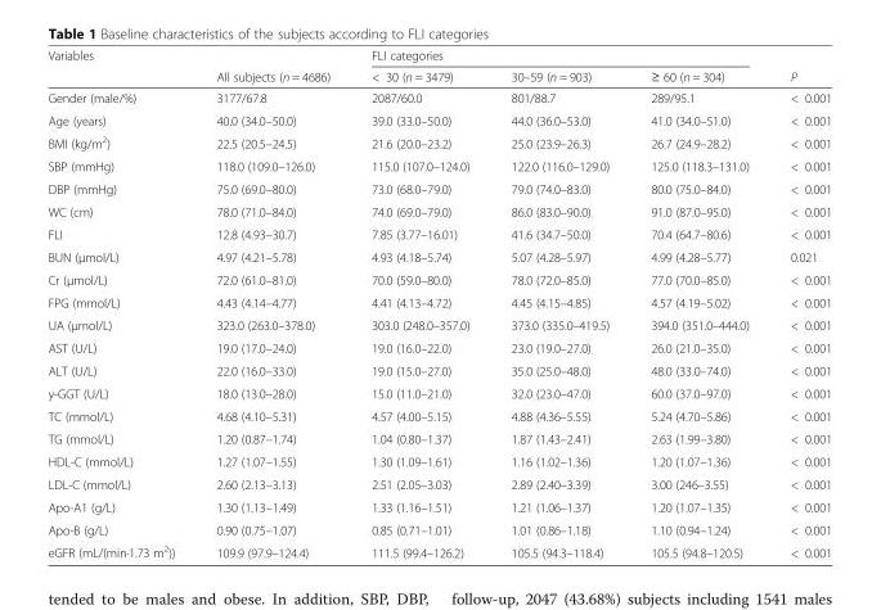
<table><thead><tr><td rowspan="2">Variables</td><td rowspan="2">All subjects (n = 4686)</td><td colspan="3">FLI categories</td><td rowspan="2">P</td></tr><tr><td>&lt; 30 (n = 3479)</td><td>30–59 (n = 903)</td><td>≥ 60 (n = 304)</td></tr></thead><tbody><tr><td>Gender (male/%)</td><td>3177/67.8</td><td>2087/60.0</td><td>801/88.7</td><td>289/95.1</td><td>&lt; 0.001</td></tr><tr><td>Age (years)</td><td>40.0 (34.0–50.0)</td><td>39.0 (33.0–50.0)</td><td>44.0 (36.0–53.0)</td><td>41.0 (34.0–51.0)</td><td>&lt; 0.001</td></tr><tr><td>BMI (kg/m2)</td><td>22.5 (20.5–24.5)</td><td>21.6 (20.0–23.2)</td><td>25.0 (23.9–26.3)</td><td>26.7 (24.9–28.2)</td><td>&lt; 0.001</td></tr><tr><td>SBP (mmHg)</td><td>118.0 (109.0–126.0)</td><td>115.0 (107.0–124.0)</td><td>122.0 (116.0–129.0)</td><td>125.0 (118.3–131.0)</td><td>&lt; 0.001</td></tr><tr><td>DBP (mmHg)</td><td>75.0 (69.0–80.0)</td><td>73.0 (68.0–79.0)</td><td>79.0 (74.0–83.0)</td><td>80.0 (75.0–84.0)</td><td>&lt; 0.001</td></tr><tr><td>WC (cm)</td><td>78.0 (71.0–84.0)</td><td>74.0 (69.0–79.0)</td><td>86.0 (83.0–90.0)</td><td>91.0 (87.0–95.0)</td><td>&lt; 0.001</td></tr><tr><td>FLI</td><td>12.8 (4.93–30.7)</td><td>7.85 (3.77–16.01)</td><td>41.6 (34.7–50.0)</td><td>70.4 (64.7–80.6)</td><td>&lt; 0.001</td></tr><tr><td>BUN (μmol/L)</td><td>4.97 (4.21–5.78)</td><td>4.93 (4.18–5.74)</td><td>5.07 (4.28–5.97)</td><td>4.99 (4.28–5.77)</td><td>0.021</td></tr><tr><td>Cr (μmol/L)</td><td>72.0 (61.0–81.0)</td><td>70.0 (59.0–80.0)</td><td>78.0 (72.0–85.0)</td><td>77.0 (70.0–85.0)</td><td>&lt; 0.001</td></tr><tr><td>FPG (mmol/L)</td><td>4.43 (4.14–4.77)</td><td>4.41 (4.13–4.72)</td><td>4.45 (4.15–4.85)</td><td>4.57 (4.19–5.02)</td><td>&lt; 0.001</td></tr><tr><td>UA (μmol/L)</td><td>323.0 (263.0–378.0)</td><td>303.0 (248.0–357.0)</td><td>373.0 (335.0–419.5)</td><td>394.0 (351.0–444.0)</td><td>&lt; 0.001</td></tr><tr><td>AST (U/L)</td><td>19.0 (17.0–24.0)</td><td>19.0 (16.0–22.0)</td><td>23.0 (19.0–27.0)</td><td>26.0 (21.0–35.0)</td><td>&lt; 0.001</td></tr><tr><td>ALT (U/L)</td><td>22.0 (16.0–33.0)</td><td>19.0 (15.0–27.0)</td><td>35.0 (25.0–48.0)</td><td>48.0 (33.0–74.0)</td><td>&lt; 0.001</td></tr><tr><td>y-GGT (U/L)</td><td>18.0 (13.0–28.0)</td><td>15.0 (11.0–21.0)</td><td>32.0 (23.0–47.0)</td><td>60.0 (37.0–97.0)</td><td>&lt; 0.001</td></tr><tr><td>TC (mmol/L)</td><td>4.68 (4.10–5.31)</td><td>4.57 (4.00–5.15)</td><td>4.88 (4.36–5.55)</td><td>5.24 (4.70–5.86)</td><td>&lt; 0.001</td></tr><tr><td>TG (mmol/L)</td><td>1.20 (0.87–1.74)</td><td>1.04 (0.80–1.37)</td><td>1.87 (1.43–2.41)</td><td>2.63 (1.99–3.80)</td><td>&lt; 0.001</td></tr><tr><td>HDL-C (mmol/L)</td><td>1.27 (1.07–1.55)</td><td>1.30 (1.09–1.61)</td><td>1.16 (1.02–1.36)</td><td>1.20 (1.07–1.36)</td><td>&lt; 0.001</td></tr><tr><td>LDL-C (mmol/L)</td><td>2.60 (2.13–3.13)</td><td>2.51 (2.05–3.03)</td><td>2.89 (2.40–3.39)</td><td>3.00 (246–3.55)</td><td>&lt; 0.001</td></tr><tr><td>Apo-A1 (g/L)</td><td>1.30 (1.13–1.49)</td><td>1.33 (1.16–1.51)</td><td>1.21 (1.06–1.37)</td><td>1.20 (1.07–1.35)</td><td>&lt; 0.001</td></tr><tr><td>Apo-B (g/L)</td><td>0.90 (0.75–1.07)</td><td>0.85 (0.71–1.01)</td><td>1.01 (0.86–1.18)</td><td>1.10 (0.94–1.24)</td><td>&lt; 0.001</td></tr><tr><td>eGFR (mL/(min·1.73 m2))</td><td>109.9 (97.9–124.4)</td><td>111.5 (99.4–126.2)</td><td>105.5 (94.3–118.4)</td><td>105.5 (94.8–120.5)</td><td>&lt; 0.001</td></tr></tbody></table>